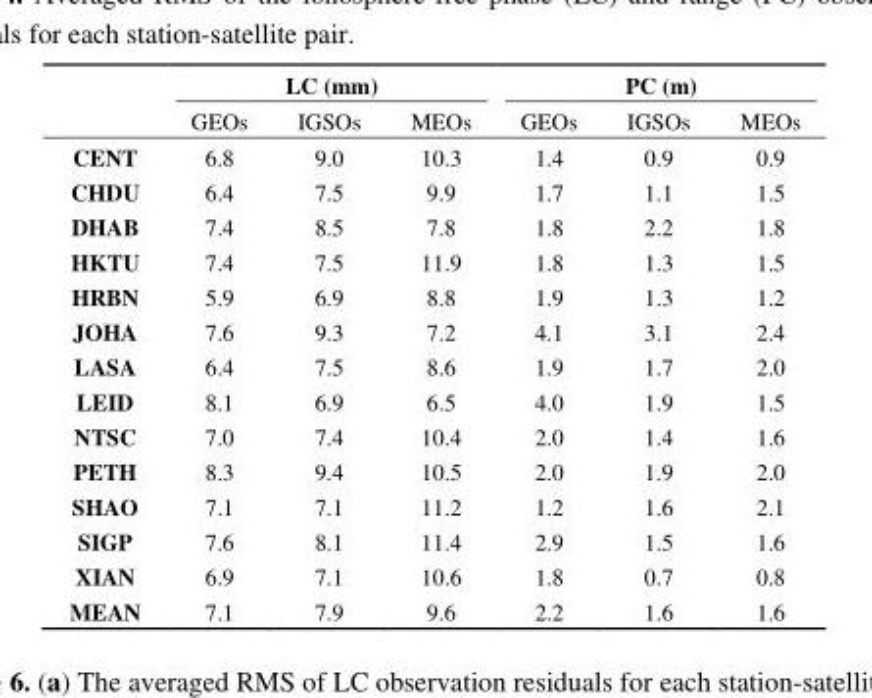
<table><thead><tr><td rowspan="2"></td><td colspan="3">LC (mm)</td><td colspan="3">PC (m)</td></tr><tr><td>GEOs</td><td>IGSOs</td><td>MEOs</td><td>GEOs</td><td>IGSOs</td><td>MEOs</td></tr></thead><tbody><tr><td>CENT</td><td>6.8</td><td>9.0</td><td>10.3</td><td>1.4</td><td>0.9</td><td>0.9</td></tr><tr><td>CHDU</td><td>6.4</td><td>7.5</td><td>9.9</td><td>1.7</td><td>1.1</td><td>1.5</td></tr><tr><td>DHAB</td><td>7.4</td><td>8.5</td><td>7.8</td><td>1.8</td><td>2.2</td><td>1.8</td></tr><tr><td>HKTU</td><td>7.4</td><td>7.5</td><td>11.9</td><td>1.8</td><td>1.3</td><td>1.5</td></tr><tr><td>HRBN</td><td>5.9</td><td>6.9</td><td>8.8</td><td>1.9</td><td>1.3</td><td>1.2</td></tr><tr><td>JOHA</td><td>7.6</td><td>9.3</td><td>7.2</td><td>4.1</td><td>3.1</td><td>2.4</td></tr><tr><td>LASA</td><td>6.4</td><td>7.5</td><td>8.6</td><td>1.9</td><td>1.7</td><td>2.0</td></tr><tr><td>LEID</td><td>8.1</td><td>6.9</td><td>6.5</td><td>4.0</td><td>1.9</td><td>1.5</td></tr><tr><td>NTSC</td><td>7.0</td><td>7.4</td><td>10.4</td><td>2.0</td><td>1.4</td><td>1.6</td></tr><tr><td>PETH</td><td>8.3</td><td>9.4</td><td>10.5</td><td>2.0</td><td>1.9</td><td>2.0</td></tr><tr><td>SHAO</td><td>7.1</td><td>7.1</td><td>11.2</td><td>1.2</td><td>1.6</td><td>2.1</td></tr><tr><td>SIGP</td><td>7.6</td><td>8.1</td><td>11.4</td><td>2.9</td><td>1.5</td><td>1.6</td></tr><tr><td>XIAN</td><td>6.9</td><td>7.1</td><td>10.6</td><td>1.8</td><td>0.7</td><td>0.8</td></tr><tr><td>MEAN</td><td>7.1</td><td>7.9</td><td>9.6</td><td>2.2</td><td>1.6</td><td>1.6</td></tr></tbody></table>